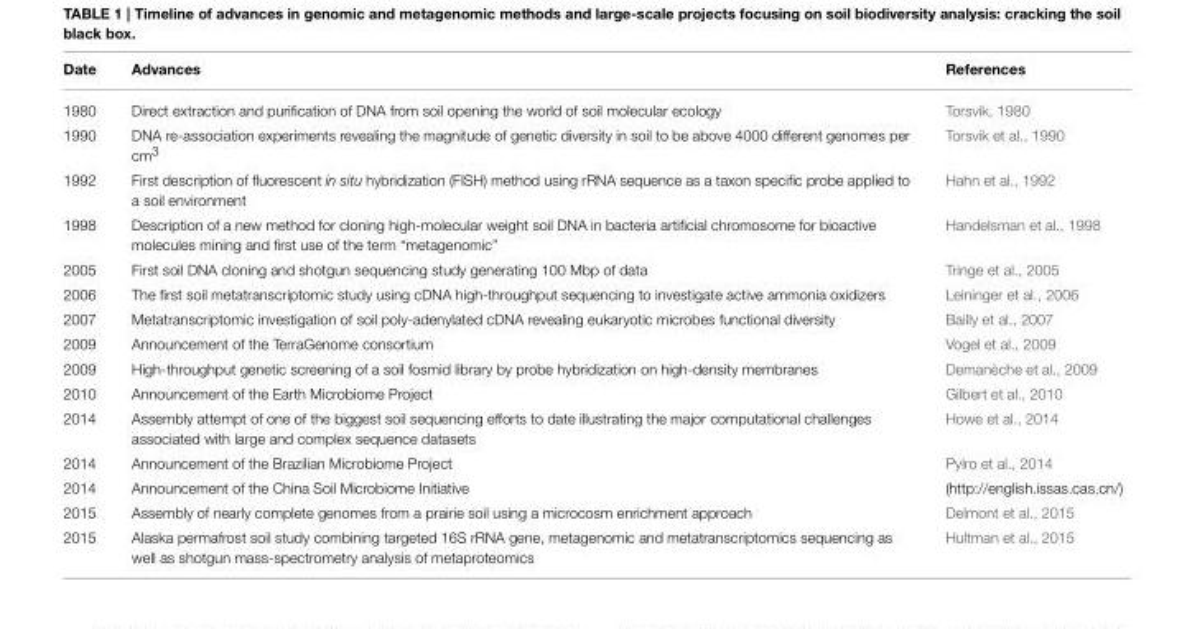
<table><thead><tr><td>Date</td><td>Advances</td><td>References</td></tr></thead><tbody><tr><td>1980</td><td>Direct extraction and purification of DNA from soil opening the world of soil molecular ecology</td><td>Torsvik, 1980</td></tr><tr><td>1990</td><td>DNA re-association experiments revealing the magnitude of genetic diversity in soil to be above 4000 different genomes per cm<sup>3</sup></td><td>Torsvik et al., 1990</td></tr><tr><td>1992</td><td>First description of fluorescent in situ hybridization (FISH) method using rRNA sequence as a taxon specific probe applied to a soil environment</td><td>Hahn et al., 1992</td></tr><tr><td>1998</td><td>Description of a new method for cloning high-molecular weight soil DNA in bacteria artificial chromosome for bioactive molecules mining and first use of the term “metagenomic”</td><td>Handelsman et al., 1998</td></tr><tr><td>2005</td><td>First soil DNA cloning and shotgun sequencing study generating 100 Mbp of data</td><td>Tringe et al., 2005</td></tr><tr><td>2006</td><td>The first soil metatranscriptomic study using cDNA high-throughput sequencing to investigate active ammonia oxidizers</td><td>Leininger et al., 2006</td></tr><tr><td>2007</td><td>Metatranscriptomic investigation of soil poly-adenylated cDNA revealing eukaryotic microbes functional diversity</td><td>Bailly et al., 2007</td></tr><tr><td>2009</td><td>Announcement of the TerraGenome consortium</td><td>Vogel et al., 2009</td></tr><tr><td>2009</td><td>High-throughput genetic screening of a soil fosmid library by probe hybridization on high-density membranes</td><td>Demanèche et al., 2009</td></tr><tr><td>2010</td><td>Announcement of the Earth Microbiome Project</td><td>Gilbert et al., 2010</td></tr><tr><td>2014</td><td>Assembly attempt of one of the biggest soil sequencing efforts to date illustrating the major computational challenges associated with large and complex sequence datasets</td><td>Howe et al., 2014</td></tr><tr><td>2014</td><td>Announcement of the Brazilian Microbiome Project</td><td>Pylro et al., 2014</td></tr><tr><td>2014</td><td>Announcement of the China Soil Microbiome Initiative</td><td>(http://english.issas.cas.cn/)</td></tr><tr><td>2015</td><td>Assembly of nearly complete genomes from a prairie soil using a microcosm enrichment approach</td><td>Delmont et al., 2015</td></tr><tr><td>2015</td><td>Alaska permafrost soil study combining targeted 16S rRNA gene, metagenomic and metatranscriptomics sequencing as well as shotgun mass-spectrometry analysis of metaproteomics</td><td>Hultman et al., 2015</td></tr></tbody></table>